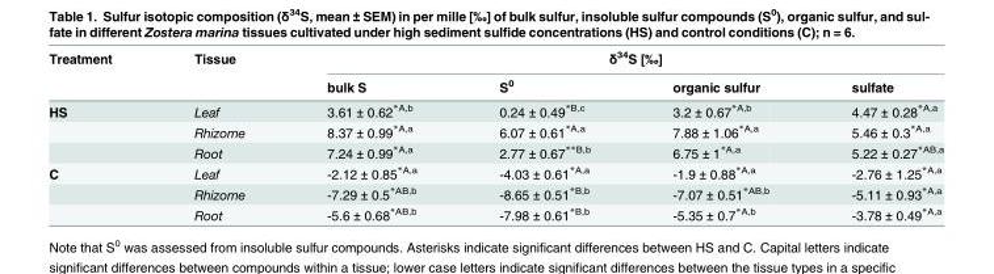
<table><thead><tr><td rowspan="2">Treatment</td><td rowspan="2">Tissue</td><td colspan="4">δ<sup>34</sup>S [‰]</td></tr><tr><td>bulk S</td><td>S<sup>0</sup></td><td>organic sulfur</td><td>sulfate</td></tr></thead><tbody><tr><td rowspan="3">HS</td><td>Leaf</td><td>3.61 ± 0.62<sup>*A,b</sup></td><td>0.24 ± 0.49<sup>*B,c</sup></td><td>3.2 ± 0.67<sup>*A,b</sup></td><td>4.47 ± 0.28<sup>*A,a</sup></td></tr><tr><td>Rhizome</td><td>8.37 ± 0.99<sup>*A,a</sup></td><td>6.07 ± 0.61<sup>*A,a</sup></td><td>7.88 ± 1.06<sup>*A,a</sup></td><td>5.46 ± 0.3<sup>*A,a</sup></td></tr><tr><td>Root</td><td>7.24 ± 0.99<sup>*A,a</sup></td><td>2.77 ± 0.67<sup>**B,b</sup></td><td>6.75 ± 1<sup>*A,a</sup></td><td>5.22 ± 0.27<sup>*AB,a</sup></td></tr><tr><td rowspan="3">C</td><td>Leaf</td><td>-2.12 ± 0.85<sup>*A,a</sup></td><td>-4.03 ± 0.61<sup>*A,a</sup></td><td>-1.9 ± 0.88<sup>*A,a</sup></td><td>-2.76 ± 1.25<sup>*A,a</sup></td></tr><tr><td>Rhizome</td><td>-7.29 ± 0.5<sup>*AB,b</sup></td><td>-8.65 ± 0.51<sup>*B,b</sup></td><td>-7.07 ± 0.51<sup>*AB,b</sup></td><td>-5.11 ± 0.93<sup>*A,a</sup></td></tr><tr><td>Root</td><td>-5.6 ± 0.68<sup>*AB,b</sup></td><td>-7.98 ± 0.61<sup>*B,b</sup></td><td>-5.35 ± 0.7<sup>*A,b</sup></td><td>-3.78 ± 0.49<sup>*A,a</sup></td></tr></tbody></table>